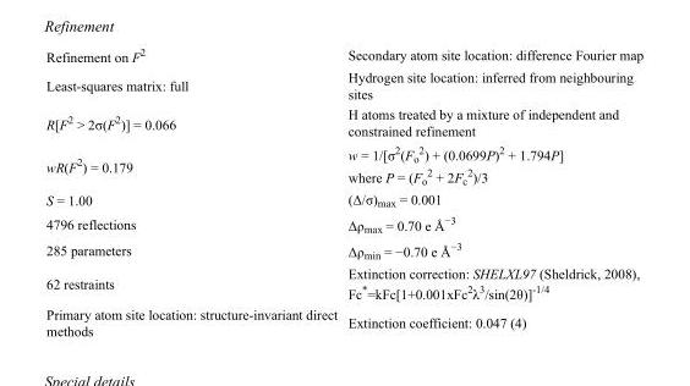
<table><tbody><tr><td>Refinement on F<sup>2</sup></td><td>Secondary atom site location: difference Fourier map</td></tr><tr><td>Least-squares matrix: full</td><td>Hydrogen site location: inferred from neighbouring sites</td></tr><tr><td>R[F<sup>2</sup> &gt; 2σ(F<sup>2</sup>)] = 0.066</td><td>H atoms treated by a mixture of independent and constrained refinement</td></tr><tr><td>wR(F<sup>2</sup>) = 0.179</td><td>w = 1/[σ<sup>2</sup>(F<sub>o</sub> <sup>2</sup>) + (0.0699P)<sup>2</sup> + 1.794P] where P = (F<sub>o</sub> <sup>2</sup> + 2F<sub>c</sub> <sup>2</sup>)/3</td></tr><tr><td>S = 1.00</td><td>(Δ/σ)<sub>max</sub> = 0.001</td></tr><tr><td>4796 reflections</td><td>Δρ<sub>max</sub> = 0.70 e Å<sup>−3</sup></td></tr><tr><td>285 parameters</td><td>Δρ<sub>min</sub> = −0.70 e Å<sup>−3</sup></td></tr><tr><td>62 restraints</td><td>Extinction correction: SHELXL97 (Sheldrick, 2008), Fc*=kFc[1+0.001xFc<sup>2</sup>λ<sup>3</sup>/sin(2θ)]<sup>-1/4</sup></td></tr><tr><td>Primary atom site location: structure-invariant direct methods</td><td>Extinction coefficient: 0.047 (4)</td></tr></tbody></table>